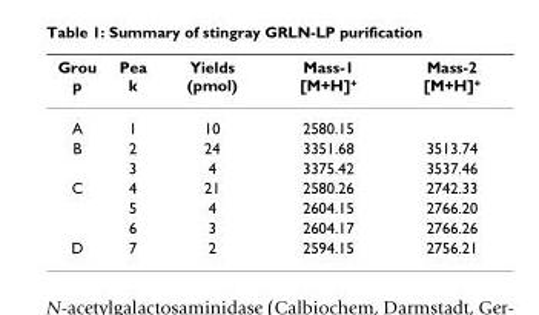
<table><thead><tr><td>Grou p</td><td>Pea k</td><td>Yields (pmol)</td><td>Mass-1 [M+H]<sup>+</sup></td><td>Mass-2 [M+H]<sup>+</sup></td></tr></thead><tbody><tr><td>A</td><td>1</td><td>10</td><td>2580.15</td><td></td></tr><tr><td rowspan="2">B</td><td>2</td><td>24</td><td>3351.68</td><td>3513.74</td></tr><tr><td>3</td><td>4</td><td>3375.42</td><td>3537.46</td></tr><tr><td rowspan="3">C</td><td>4</td><td>21</td><td>2580.26</td><td>2742.33</td></tr><tr><td>5</td><td>4</td><td>2604.15</td><td>2766.20</td></tr><tr><td>6</td><td>3</td><td>2604.17</td><td>2766.26</td></tr><tr><td>D</td><td>7</td><td>2</td><td>2594.15</td><td>2756.21</td></tr></tbody></table>